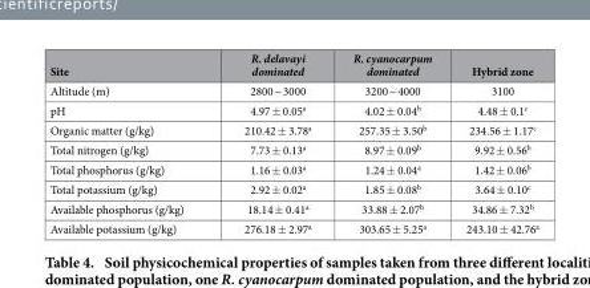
<table><thead><tr><td>Site</td><td>R. delavayi dominated</td><td>R. cyanocarpum dominated</td><td>Hybrid zone</td></tr></thead><tbody><tr><td>Altitude (m)</td><td>2800 ~ 3000</td><td>3200 ~ 4000</td><td>3100</td></tr><tr><td>pH</td><td>4.97 ± 0.05<sup>a</sup></td><td>4.02 ± 0.04<sup>b</sup></td><td>4.48 ± 0.1<sup>c</sup></td></tr><tr><td>Organic matter (g/kg)</td><td>210.42 ± 3.78<sup>a</sup></td><td>257.35 ± 3.50<sup>b</sup></td><td>234.56 ± 1.17<sup>c</sup></td></tr><tr><td>Total nitrogen (g/kg)</td><td>7.73 ± 0.13<sup>a</sup></td><td>8.97 ± 0.09<sup>b</sup></td><td>9.92 ± 0.56<sup>b</sup></td></tr><tr><td>Total phosphorus (g/kg)</td><td>1.16 ± 0.03<sup>a</sup></td><td>1.24 ± 0.04<sup>a</sup></td><td>1.42 ± 0.06<sup>b</sup></td></tr><tr><td>Total potassium (g/kg)</td><td>2.92 ± 0.02<sup>a</sup></td><td>1.85 ± 0.08<sup>b</sup></td><td>3.64 ± 0.10<sup>c</sup></td></tr><tr><td>Available phosphorus (g/kg)</td><td>18.14 ± 0.41<sup>a</sup></td><td>33.88 ± 2.07<sup>b</sup></td><td>34.86 ± 7.32<sup>b</sup></td></tr><tr><td>Available potassium (g/kg)</td><td>276.18 ± 2.97<sup>a</sup></td><td>303.65 ± 5.25<sup>a</sup></td><td>243.10 ± 42.76<sup>a</sup></td></tr></tbody></table>